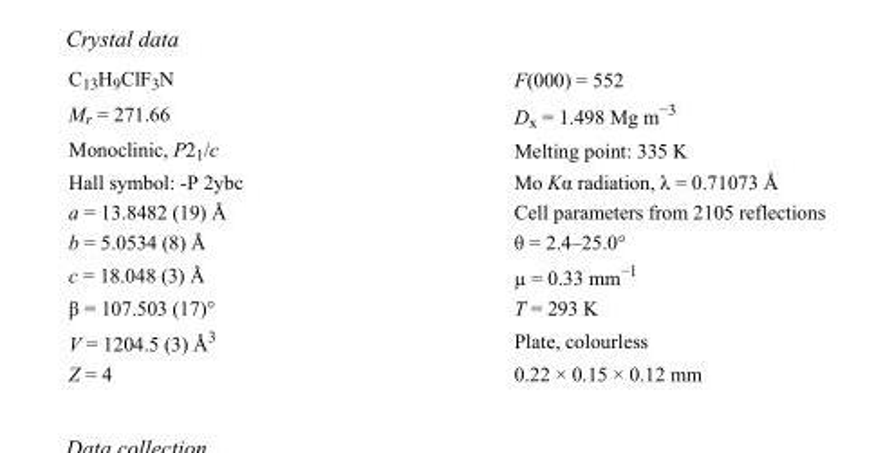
<table><tbody><tr><td>C<sub>13</sub>H<sub>9</sub>ClF<sub>3</sub>N</td><td>F(000) = 552</td></tr><tr><td>M<sub>r</sub> = 271.66</td><td>D<sub>x</sub> = 1.498 Mg m<sup>−3</sup></td></tr><tr><td>Monoclinic, P2<sub>1</sub>/c</td><td>Melting point: 335 K</td></tr><tr><td>Hall symbol: -P 2ybc</td><td>Mo Kα radiation, λ = 0.71073 Å</td></tr><tr><td>a = 13.8482 (19) Å</td><td>Cell parameters from 2105 reflections</td></tr><tr><td>b = 5.0534 (8) Å</td><td>θ = 2.4–25.0°</td></tr><tr><td>c = 18.048 (3) Å</td><td>µ = 0.33 mm<sup>−1</sup></td></tr><tr><td>β = 107.503 (17)°</td><td>T = 293 K</td></tr><tr><td>V = 1204.5 (3) Å<sup>3</sup></td><td>Plate, colourless</td></tr><tr><td>Z = 4</td><td>0.22 × 0.15 × 0.12 mm</td></tr></tbody></table>